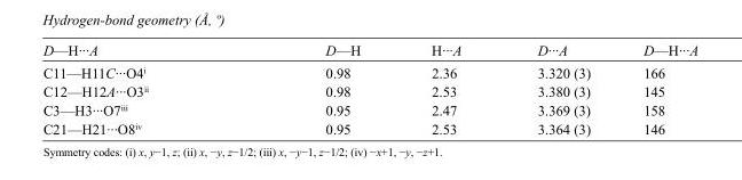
<table><tbody><tr><td>D—H···A</td><td>D—H</td><td>H···A</td><td>D···A</td><td>D—H···A</td></tr><tr><td>C11—H11C···O4<sup>i</sup></td><td>0.98</td><td>2.36</td><td>3.320 (3)</td><td>166</td></tr><tr><td>C12—H12A···O3<sup>ii</sup></td><td>0.98</td><td>2.53</td><td>3.380 (3)</td><td>145</td></tr><tr><td>C3—H3···O7<sup>iii</sup></td><td>0.95</td><td>2.47</td><td>3.369 (3)</td><td>158</td></tr><tr><td>C21—H21···O8<sup>iv</sup></td><td>0.95</td><td>2.53</td><td>3.364 (3)</td><td>146</td></tr></tbody></table>